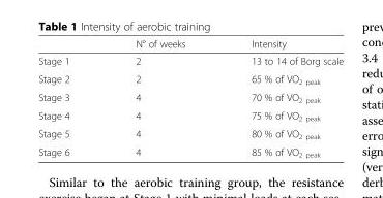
<table><thead><tr><td></td><td>N° of weeks</td><td>Intensity</td></tr></thead><tbody><tr><td>Stage 1</td><td>2</td><td>13 to 14 of Borg scale</td></tr><tr><td>Stage 2</td><td>2</td><td>65 % of VO<sub>2 peak</sub></td></tr><tr><td>Stage 3</td><td>4</td><td>70 % of VO<sub>2 peak</sub></td></tr><tr><td>Stage 4</td><td>4</td><td>75 % of VO<sub>2 peak</sub></td></tr><tr><td>Stage 5</td><td>4</td><td>80 % of VO<sub>2 peak</sub></td></tr><tr><td>Stage 6</td><td>4</td><td>85 % of VO<sub>2 peak</sub></td></tr></tbody></table>